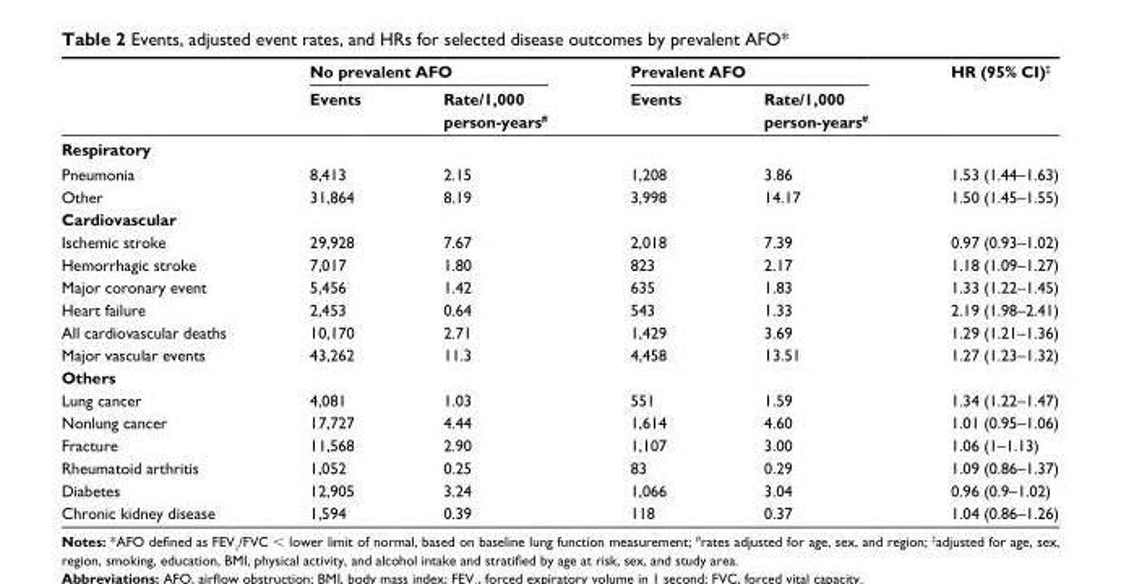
<table><thead><tr><td rowspan="2"></td><td colspan="2">No prevalent AFO</td><td colspan="2">Prevalent AFO</td><td rowspan="2">HR (95% CI)‡</td></tr><tr><td>Events</td><td>Rate/1,000 person-years#</td><td>Events</td><td>Rate/1,000 person-years#</td></tr></thead><tbody><tr><td colspan="6">Respiratory</td></tr><tr><td>Pneumonia</td><td>8,413</td><td>2.15</td><td>1,208</td><td>3.86</td><td>1.53 (1.44–1.63)</td></tr><tr><td>Other</td><td>31,864</td><td>8.19</td><td>3,998</td><td>14.17</td><td>1.50 (1.45–1.55)</td></tr><tr><td colspan="6">Cardiovascular</td></tr><tr><td>Ischemic stroke</td><td>29,928</td><td>7.67</td><td>2,018</td><td>7.39</td><td>0.97 (0.93–1.02)</td></tr><tr><td>hemorrhagic stroke</td><td>7,017</td><td>1.80</td><td>823</td><td>2.17</td><td>1.18 (1.09–1.27)</td></tr><tr><td>Major coronary event</td><td>5,456</td><td>1.42</td><td>635</td><td>1.83</td><td>1.33 (1.22–1.45)</td></tr><tr><td>heart failure</td><td>2,453</td><td>0.64</td><td>543</td><td>1.33</td><td>2.19 (1.98–2.41)</td></tr><tr><td>all cardiovascular deaths</td><td>10,170</td><td>2.71</td><td>1,429</td><td>3.69</td><td>1.29 (1.21–1.36)</td></tr><tr><td>Major vascular events</td><td>43,262</td><td>11.3</td><td>4,458</td><td>13.51</td><td>1.27 (1.23–1.32)</td></tr><tr><td colspan="6">Others</td></tr><tr><td>lung cancer</td><td>4,081</td><td>1.03</td><td>551</td><td>1.59</td><td>1.34 (1.22–1.47)</td></tr><tr><td>nonlung cancer</td><td>17,727</td><td>4.44</td><td>1,614</td><td>4.60</td><td>1.01 (0.95–1.06)</td></tr><tr><td>Fracture</td><td>11,568</td><td>2.90</td><td>1,107</td><td>3.00</td><td>1.06 (1–1.13)</td></tr><tr><td>rheumatoid arthritis</td><td>1,052</td><td>0.25</td><td>83</td><td>0.29</td><td>1.09 (0.86–1.37)</td></tr><tr><td>Diabetes</td><td>12,905</td><td>3.24</td><td>1,066</td><td>3.04</td><td>0.96 (0.9–1.02)</td></tr><tr><td>Chronic kidney disease</td><td>1,594</td><td>0.39</td><td>118</td><td>0.37</td><td>1.04 (0.86–1.26)</td></tr></tbody></table>